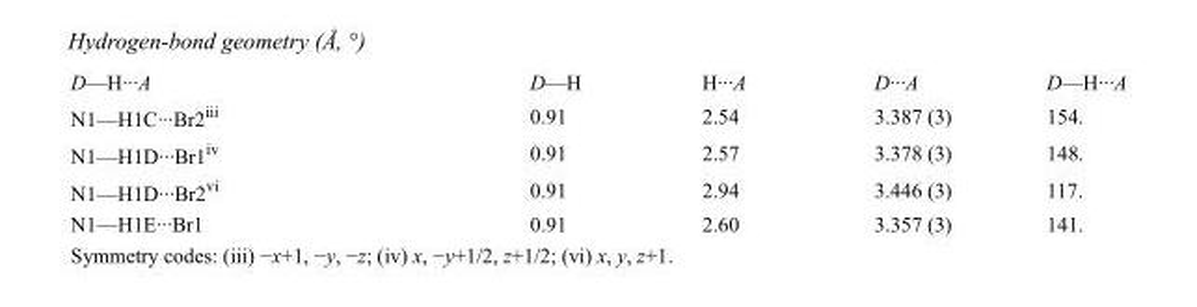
<table><tbody><tr><td>D—H···A</td><td>D—H</td><td>H···A</td><td>D···A</td><td>D—H···A</td></tr><tr><td>N1—H1C···Br2<sup>iii</sup></td><td>0.91</td><td>2.54</td><td>3.387 (3)</td><td>154.</td></tr><tr><td>N1—H1D···Br1<sup>iv</sup></td><td>0.91</td><td>2.57</td><td>3.378 (3)</td><td>148.</td></tr><tr><td>N1—H1D···Br2<sup>vi</sup></td><td>0.91</td><td>2.94</td><td>3.446 (3)</td><td>117.</td></tr><tr><td>N1—H1E···Br1</td><td>0.91</td><td>2.60</td><td>3.357 (3)</td><td>141.</td></tr></tbody></table>